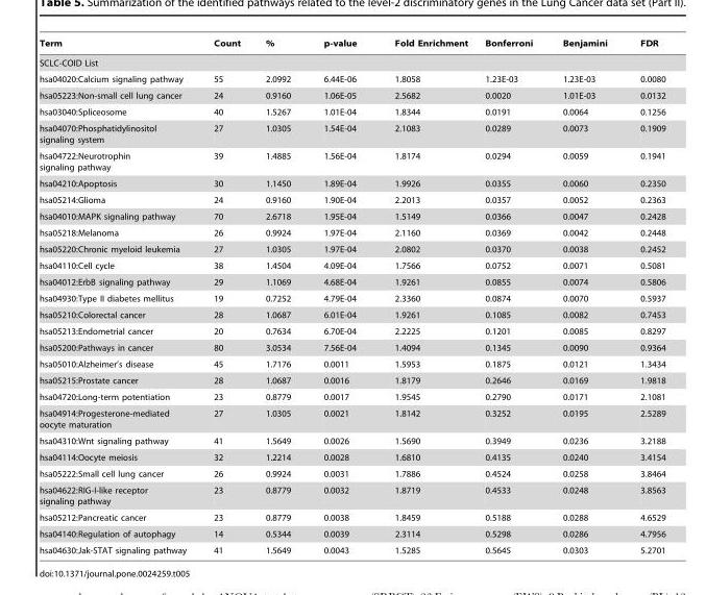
<table><thead><tr><td>Term</td><td>Count</td><td>%</td><td>p-value</td><td>Fold Enrichment</td><td>Bonferroni</td><td>Benjamini</td><td>FDR</td></tr></thead><tbody><tr><td colspan="8">SCLC-COID List</td></tr><tr><td>hsa04020:Calcium signaling pathway</td><td>55</td><td>2.0992</td><td>6.44E-06</td><td>1.8058</td><td>1.23E-03</td><td>1.23E-03</td><td>0.0080</td></tr><tr><td>hsa05223:Non-small cell lung cancer</td><td>24</td><td>0.9160</td><td>1.06E-05</td><td>2.5682</td><td>0.0020</td><td>1.01E-03</td><td>0.0132</td></tr><tr><td>hsa03040:Spliceosome</td><td>40</td><td>1.5267</td><td>1.01E-04</td><td>1.8344</td><td>0.0191</td><td>0.0064</td><td>0.1256</td></tr><tr><td>hsa04070:Phosphatidylinositol signaling system</td><td>27</td><td>1.0305</td><td>1.54E-04</td><td>2.1083</td><td>0.0289</td><td>0.0073</td><td>0.1909</td></tr><tr><td>hsa04722:Neurotrophin signaling pathway</td><td>39</td><td>1.4885</td><td>1.56E-04</td><td>1.8174</td><td>0.0294</td><td>0.0059</td><td>0.1941</td></tr><tr><td>hsa04210:Apoptosis</td><td>30</td><td>1.1450</td><td>1.89E-04</td><td>1.9926</td><td>0.0355</td><td>0.0060</td><td>0.2350</td></tr><tr><td>hsa05214:Glioma</td><td>24</td><td>0.9160</td><td>1.90E-04</td><td>2.2013</td><td>0.0357</td><td>0.0052</td><td>0.2363</td></tr><tr><td>hsa04010:MAPK signaling pathway</td><td>70</td><td>2.6718</td><td>1.95E-04</td><td>1.5149</td><td>0.0366</td><td>0.0047</td><td>0.2428</td></tr><tr><td>hsa05218:Melanoma</td><td>26</td><td>0.9924</td><td>1.97E-04</td><td>2.1160</td><td>0.0369</td><td>0.0042</td><td>0.2448</td></tr><tr><td>hsa05220:Chronic myeloid leukemia</td><td>27</td><td>1.0305</td><td>1.97E-04</td><td>2.0802</td><td>0.0370</td><td>0.0038</td><td>0.2452</td></tr><tr><td>hsa04110:Cell cycle</td><td>38</td><td>1.4504</td><td>4.09E-04</td><td>1.7566</td><td>0.0752</td><td>0.0071</td><td>0.5081</td></tr><tr><td>hsa04012:ErbB signaling pathway</td><td>29</td><td>1.1069</td><td>4.68E-04</td><td>1.9261</td><td>0.0855</td><td>0.0074</td><td>0.5806</td></tr><tr><td>hsa04930:Type II diabetes mellitus</td><td>19</td><td>0.7252</td><td>4.79E-04</td><td>2.3360</td><td>0.0874</td><td>0.0070</td><td>0.5937</td></tr><tr><td>hsa05210:Colorectal cancer</td><td>28</td><td>1.0687</td><td>6.01E-04</td><td>1.9261</td><td>0.1085</td><td>0.0082</td><td>0.7453</td></tr><tr><td>hsa05213:Endometrial cancer</td><td>20</td><td>0.7634</td><td>6.70E-04</td><td>2.2225</td><td>0.1201</td><td>0.0085</td><td>0.8297</td></tr><tr><td>hsa05200:Pathways in cancer</td><td>80</td><td>3.0534</td><td>7.56E-04</td><td>1.4094</td><td>0.1345</td><td>0.0090</td><td>0.9364</td></tr><tr><td>hsa05010:Alzheimer’s disease</td><td>45</td><td>1.7176</td><td>0.0011</td><td>1.5953</td><td>0.1875</td><td>0.0121</td><td>1.3434</td></tr><tr><td>hsa05215:Prostate cancer</td><td>28</td><td>1.0687</td><td>0.0016</td><td>1.8179</td><td>0.2646</td><td>0.0169</td><td>1.9818</td></tr><tr><td>hsa04720:Long-term potentiation</td><td>23</td><td>0.8779</td><td>0.0017</td><td>1.9545</td><td>0.2790</td><td>0.0171</td><td>2.1081</td></tr><tr><td>hsa04914:Progesterone-mediated oocyte maturation</td><td>27</td><td>1.0305</td><td>0.0021</td><td>1.8142</td><td>0.3252</td><td>0.0195</td><td>2.5289</td></tr><tr><td>hsa04310:Wnt signaling pathway</td><td>41</td><td>1.5649</td><td>0.0026</td><td>1.5690</td><td>0.3949</td><td>0.0236</td><td>3.2188</td></tr><tr><td>hsa04114:Oocyte meiosis</td><td>32</td><td>1.2214</td><td>0.0028</td><td>1.6810</td><td>0.4135</td><td>0.0240</td><td>3.4154</td></tr><tr><td>hsa05222:Small cell lung cancer</td><td>26</td><td>0.9924</td><td>0.0031</td><td>1.7886</td><td>0.4524</td><td>0.0258</td><td>3.8464</td></tr><tr><td>hsa04622:RIG-I-like receptor signaling pathway</td><td>23</td><td>0.8779</td><td>0.0032</td><td>1.8719</td><td>0.4533</td><td>0.0248</td><td>3.8563</td></tr><tr><td>hsa05212:Pancreatic cancer</td><td>23</td><td>0.8779</td><td>0.0038</td><td>1.8459</td><td>0.5188</td><td>0.0288</td><td>4.6529</td></tr><tr><td>hsa04140:Regulation of autophagy</td><td>14</td><td>0.5344</td><td>0.0039</td><td>2.3114</td><td>0.5298</td><td>0.0286</td><td>4.7956</td></tr><tr><td>hsa04630:Jak-STAT signaling pathway</td><td>41</td><td>1.5649</td><td>0.0043</td><td>1.5285</td><td>0.5645</td><td>0.0303</td><td>5.2701</td></tr></tbody></table>